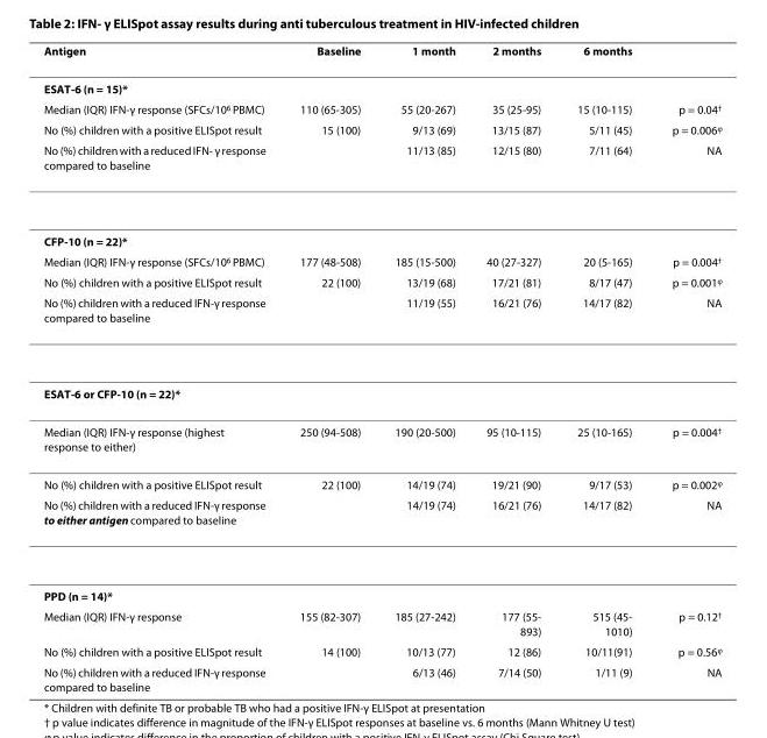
<table><thead><tr><td>Antigen</td><td>Baseline</td><td>1 month</td><td>2 months</td><td>6 months</td><td></td></tr></thead><tbody><tr><td colspan="6">ESAT-6 (n = 15)*</td></tr><tr><td>Median (IQR) IFN-γ response (SFCs/106 PBMC)</td><td>110 (65-305)</td><td>55 (20-267)</td><td>35 (25-95)</td><td>15 (10-115)</td><td>p = 0.04†</td></tr><tr><td>No (%) children with a positive ELISpot result</td><td>15 (100)</td><td>9/13 (69)</td><td>13/15 (87)</td><td>5/11 (45)</td><td>p = 0.006ϕ</td></tr><tr><td>No (%) children with a reduced IFN- γ response compared to baseline</td><td></td><td>11/13 (85)</td><td>12/15 (80)</td><td>7/11 (64)</td><td>NA</td></tr><tr><td colspan="6">CFP-10 (n = 22)*</td></tr><tr><td>Median (IQR) IFN-γ response (SFCs/106 PBMC)</td><td>177 (48-508)</td><td>185 (15-500)</td><td>40 (27-327)</td><td>20 (5-165)</td><td>p = 0.004†</td></tr><tr><td>No (%) children with a positive ELISpot result</td><td>22 (100)</td><td>13/19 (68)</td><td>17/21 (81)</td><td>8/17 (47)</td><td>p = 0.001ϕ</td></tr><tr><td>No (%) children with a reduced IFN-γ response compared to baseline</td><td></td><td>11/19 (55)</td><td>16/21 (76)</td><td>14/17 (82)</td><td>NA</td></tr><tr><td colspan="6">ESAT-6 or CFP-10 (n = 22)*</td></tr><tr><td>Median (IQR) IFN-γ response (highest response to either)</td><td>250 (94-508)</td><td>190 (20-500)</td><td>95 (10-115)</td><td>25 (10-165)</td><td>p = 0.004†</td></tr><tr><td>No (%) children with a positive ELISpot result</td><td>22 (100)</td><td>14/19 (74)</td><td>19/21 (90)</td><td>9/17 (53)</td><td>p = 0.002ϕ</td></tr><tr><td>No (%) children with a reduced IFN-γ response to either antigen compared to baseline</td><td></td><td>14/19 (74)</td><td>16/21 (76)</td><td>14/17 (82)</td><td>NA</td></tr><tr><td colspan="6">PPD (n = 14)*</td></tr><tr><td>Median (IQR) IFN-γ response</td><td>155 (82-307)</td><td>185 (27-242)</td><td>177 (55- 893)</td><td>515 (45- 1010)</td><td>p = 0.12†</td></tr><tr><td>No (%) children with a positive ELISpot result</td><td>14 (100)</td><td>10/13 (77)</td><td>12 (86)</td><td>10/11(91)</td><td>p = 0.56ϕ</td></tr><tr><td>No (%) children with a reduced IFN-γ response compared to baseline</td><td></td><td>6/13 (46)</td><td>7/14 (50)</td><td>1/11 (9)</td><td>NA</td></tr></tbody></table>